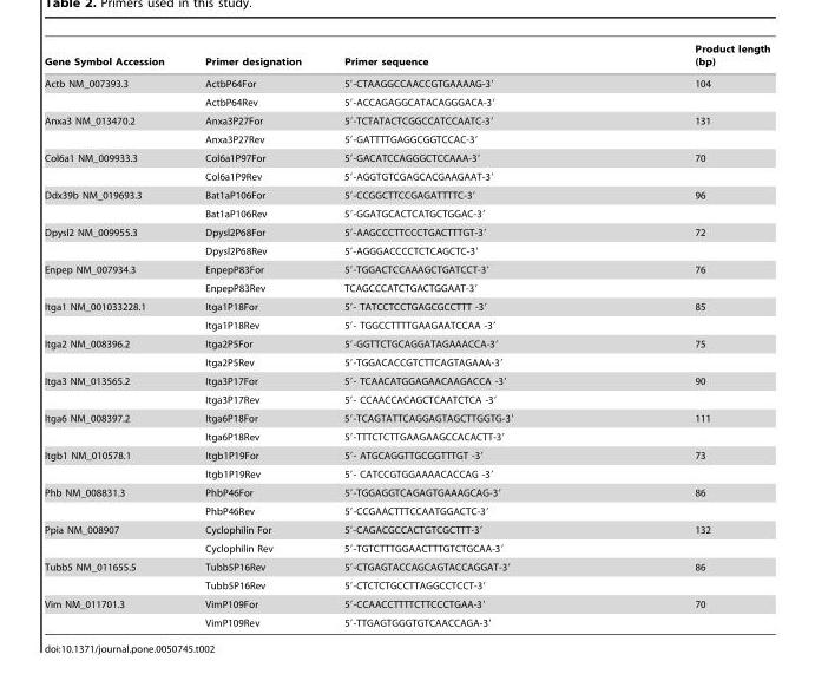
<table><thead><tr><td>Gene Symbol Accession</td><td>Primer designation</td><td>Primer sequence</td><td>Product length (bp)</td></tr></thead><tbody><tr><td rowspan="2">Actb NM_007393.3</td><td>ActbP64For</td><td>5′-CTAAGGCCAACCGTGAAAAG-3′</td><td>104</td></tr><tr><td>ActbP64Rev</td><td>5′-ACCAGAGGCATACAGGGACA-3′</td><td></td></tr><tr><td rowspan="2">Anxa3 NM_013470.2</td><td>Anxa3P27For</td><td>5′-TCTATACTCGGCCATCCAATC-3′</td><td>131</td></tr><tr><td>Anxa3P27Rev</td><td>5′-GATTTTGAGGCGGTCCAC-3′</td><td></td></tr><tr><td rowspan="2">Col6a1 NM_009933.3</td><td>Col6a1P97For</td><td>5′-GACATCCAGGGCTCCAAA-3′</td><td>70</td></tr><tr><td>Col6a1P9Rev</td><td>5′-AGGTGTCGAGCACGAAGAAT-3′</td><td></td></tr><tr><td rowspan="2">Ddx39b NM_019693.3</td><td>Bat1aP106For</td><td>5′-CCGGCTTCCGAGATTTTC-3′</td><td>96</td></tr><tr><td>Bat1aP106Rev</td><td>5′-GGATGCACTCATGCTGGAC-3′</td><td></td></tr><tr><td rowspan="2">Dpysl2 NM_009955.3</td><td>Dpysl2P68For</td><td>5′-AAGCCCTTCCCTGACTTTGT-3′</td><td>72</td></tr><tr><td>Dpysl2P68Rev</td><td>5′-AGGGACCCCTCTCAGCTC-3′</td><td></td></tr><tr><td rowspan="2">Enpep NM_007934.3</td><td>EnpepP83For</td><td>5′-TGGACTCCAAAGCTGATCCT-3′</td><td>76</td></tr><tr><td>EnpepP83Rev</td><td>TCAGCCCATCTGACTGGAAT-3′</td><td></td></tr><tr><td rowspan="2">Itga1 NM_001033228.1</td><td>Itga1P18For</td><td>5′- TATCCTCCTGAGCGCCTTT -3′</td><td>85</td></tr><tr><td>Itga1P18Rev</td><td>5′- TGGCCTTTTGAAGAATCCAA -3′</td><td></td></tr><tr><td rowspan="2">Itga2 NM_008396.2</td><td>Itga2P5For</td><td>5′-GGTTCTGCAGGATAGAAACCA-3′</td><td>75</td></tr><tr><td>Itga2P5Rev</td><td>5′-TGGACACCGTCTTCAGTAGAAA-3′</td><td></td></tr><tr><td rowspan="2">Itga3 NM_013565.2</td><td>Itga3P17For</td><td>5′- TCAACATGGAGAACAAGACCA -3′</td><td>90</td></tr><tr><td>Itga3P17Rev</td><td>5′- CCAACCACAGCTCAATCTCA -3′</td><td></td></tr><tr><td rowspan="2">Itga6 NM_008397.2</td><td>Itga6P18For</td><td>5′-TCAGTATTCAGGAGTAGCTTGGTG-3′</td><td>111</td></tr><tr><td>Itga6P18Rev</td><td>5′-TTTCTCTTGAAGAAGCCACACTT-3′</td><td></td></tr><tr><td rowspan="2">Itgb1 NM_010578.1</td><td>Itgb1P19For</td><td>5′- ATGCAGGTTGCGGTTTGT -3′</td><td>73</td></tr><tr><td>Itgb1P19Rev</td><td>5′- CATCCGTGGAAAACACCAG -3′</td><td></td></tr><tr><td rowspan="2">Phb NM_008831.3</td><td>PhbP46For</td><td>5′-TGGAGGTCAGAGTGAAAGCAG-3′</td><td>86</td></tr><tr><td>PhbP46Rev</td><td>5′-CCGAACTTTCCAATGGACTC-3′</td><td></td></tr><tr><td rowspan="2">Ppia NM_008907</td><td>Cyclophilin For</td><td>5′-CAGACGCCACTGTCGCTTT-3′</td><td>132</td></tr><tr><td>Cyclophilin Rev</td><td>5′-TGTCTTTGGAACTTTGTCTGCAA-3′</td><td></td></tr><tr><td rowspan="2">Tubb5 NM_011655.5</td><td>Tubb5P16Rev</td><td>5′-CTGAGTACCAGCAGTACCAGGAT-3′</td><td>86</td></tr><tr><td>Tubb5P16Rev</td><td>5′-CTCTCTGCCTTAGGCCTCCT-3′</td><td></td></tr><tr><td rowspan="2">Vim NM_011701.3</td><td>VimP109For</td><td>5′-CCAACCTTTTCTTCCCTGAA-3′</td><td>70</td></tr><tr><td>VimP109Rev</td><td>5′-TTGAGTGGGTGTCAACCAGA-3′</td><td></td></tr></tbody></table>